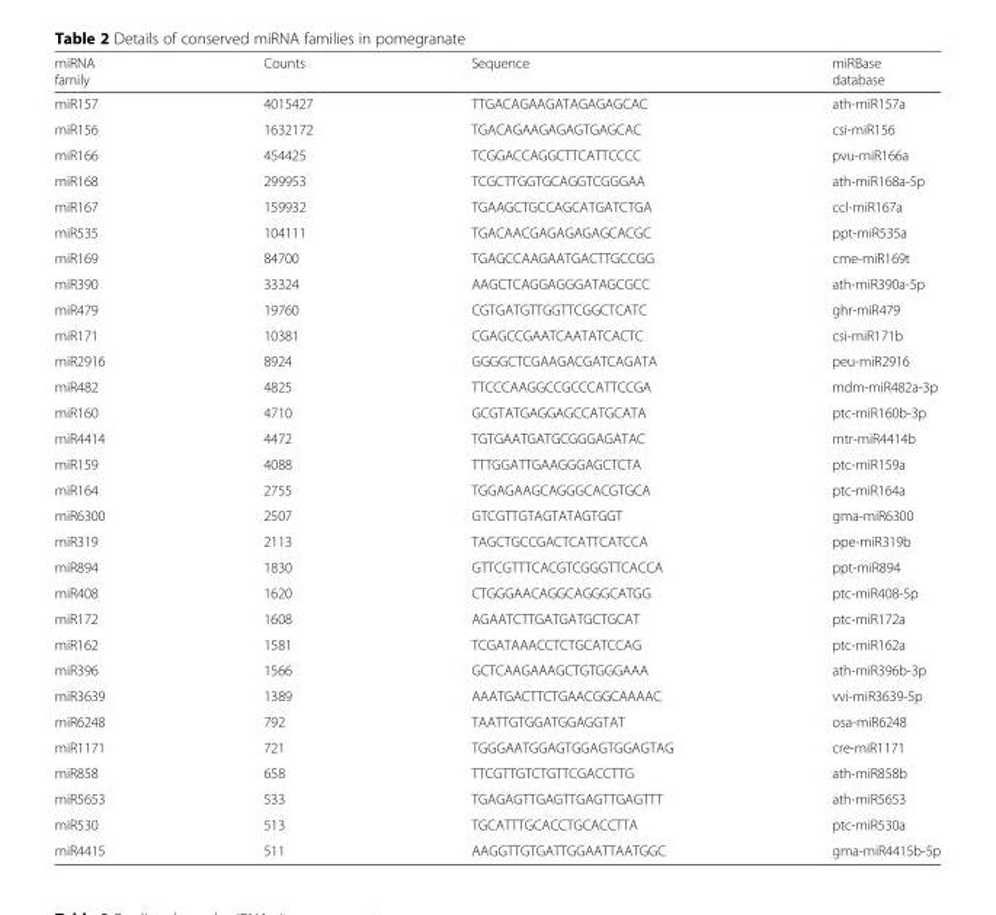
<table><thead><tr><td>miRNA family</td><td>Counts</td><td>Sequence</td><td>miRBase database</td></tr></thead><tbody><tr><td>miR157</td><td>4015427</td><td>TTGACAGAAGATAGAGAGCAC</td><td>ath-miR157a</td></tr><tr><td>miR156</td><td>1632172</td><td>TGACAGAAGAGAGTGAGCAC</td><td>csi-miR156</td></tr><tr><td>miR166</td><td>454425</td><td>TCGGACCAGGCTTCATTCCCC</td><td>pvu-miR166a</td></tr><tr><td>miR168</td><td>299953</td><td>TCGCTTGGTGCAGGTCGGGAA</td><td>ath-miR168a-5p</td></tr><tr><td>miR167</td><td>159932</td><td>TGAAGCTGCCAGCATGATCTGA</td><td>ccl-miR167a</td></tr><tr><td>miR535</td><td>104111</td><td>TGACAACGAGAGAGAGCACGC</td><td>ppt-miR535a</td></tr><tr><td>miR169</td><td>84700</td><td>TGAGCCAAGAATGACTTGCCGG</td><td>cme-miR169t</td></tr><tr><td>miR390</td><td>33324</td><td>AAGCTCAGGAGGGATAGCGCC</td><td>ath-miR390a-5p</td></tr><tr><td>miR479</td><td>19760</td><td>CGTGATGTTGGTTCGGCTCATC</td><td>ghr-miR479</td></tr><tr><td>miR171</td><td>10381</td><td>CGAGCCGAATCAATATCACTC</td><td>csi-miR171b</td></tr><tr><td>miR2916</td><td>8924</td><td>GGGGCTCGAAGACGATCAGATA</td><td>peu-miR2916</td></tr><tr><td>miR482</td><td>4825</td><td>TTCCCAAGGCCGCCCATTCCGA</td><td>mdm-miR482a-3p</td></tr><tr><td>miR160</td><td>4710</td><td>GCGTATGAGGAGCCATGCATA</td><td>ptc-miR160b-3p</td></tr><tr><td>miR4414</td><td>4472</td><td>TGTGAATGATGCGGGAGATAC</td><td>mtr-miR4414b</td></tr><tr><td>miR159</td><td>4088</td><td>TTTGGATTGAAGGGAGCTCTA</td><td>ptc-miR159a</td></tr><tr><td>miR164</td><td>2755</td><td>TGGAGAAGCAGGGCACGTGCA</td><td>ptc-miR164a</td></tr><tr><td>miR6300</td><td>2507</td><td>GTCGTTGTAGTATAGTGGT</td><td>gma-miR6300</td></tr><tr><td>miR319</td><td>2113</td><td>TAGCTGCCGACTCATTCATCCA</td><td>ppe-miR319b</td></tr><tr><td>miR894</td><td>1830</td><td>GTTCGTTTCACGTCGGGTTCACCA</td><td>ppt-miR894</td></tr><tr><td>miR408</td><td>1620</td><td>CTGGGAACAGGCAGGGCATGG</td><td>ptc-miR408-5p</td></tr><tr><td>miR172</td><td>1608</td><td>AGAATCTTGATGATGCTGCAT</td><td>ptc-miR172a</td></tr><tr><td>miR162</td><td>1581</td><td>TCGATAAACCTCTGCATCCAG</td><td>ptc-miR162a</td></tr><tr><td>miR396</td><td>1566</td><td>GCTCAAGAAAGCTGTGGGAAA</td><td>ath-miR396b-3p</td></tr><tr><td>miR3639</td><td>1389</td><td>AAATGACTTCTGAACGGCAAAAC</td><td>vvi-miR3639-5p</td></tr><tr><td>miR6248</td><td>792</td><td>TAATTGTGGATGGAGGTAT</td><td>osa-miR6248</td></tr><tr><td>miR1171</td><td>721</td><td>TGGGAATGGAGTGGAGTGGAGTAG</td><td>cre-miR1171</td></tr><tr><td>miR858</td><td>658</td><td>TTCGTTGTCTGTTCGACCTTG</td><td>ath-miR858b</td></tr><tr><td>miR5653</td><td>533</td><td>TGAGAGTTGAGTTGAGTTGAGTTT</td><td>ath-miR5653</td></tr><tr><td>miR530</td><td>513</td><td>TGCATTTGCACCTGCACCTTA</td><td>ptc-miR530a</td></tr><tr><td>miR4415</td><td>511</td><td>AAGGTTGTGATTGGAATTAATGGC</td><td>gma-miR4415b-5p</td></tr></tbody></table>